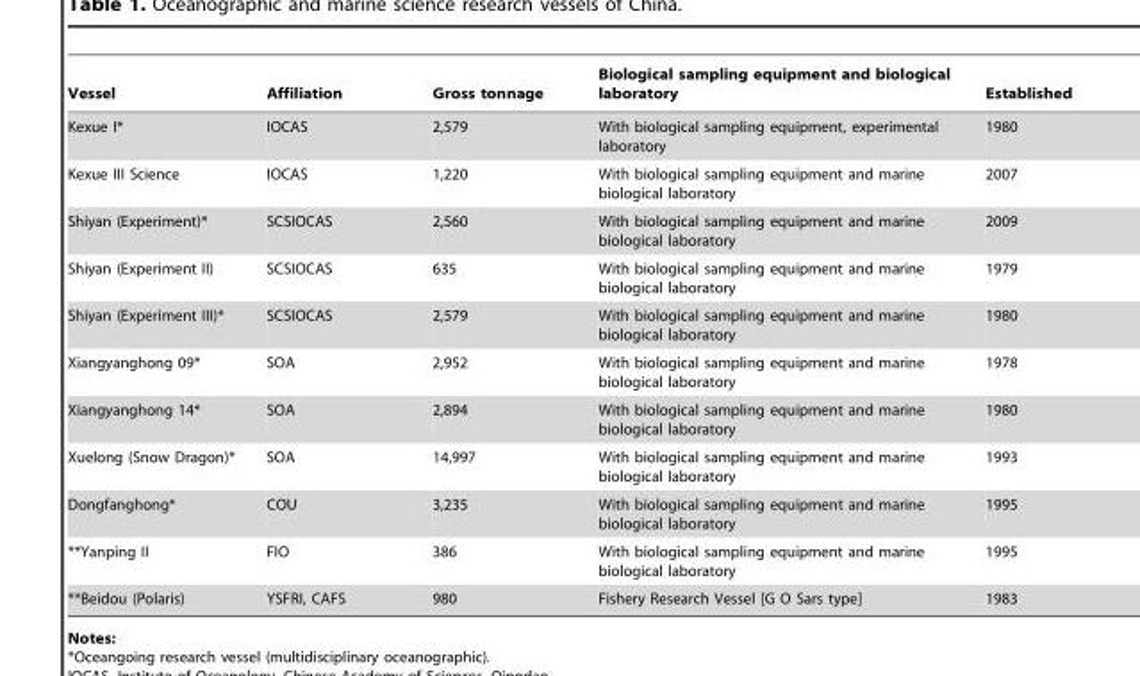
<table><thead><tr><td>Vessel</td><td>Affiliation</td><td>Gross tonnage</td><td>Biological sampling equipment and biological laboratory</td><td>Established</td></tr></thead><tbody><tr><td>Kexue I*</td><td>IOCAS</td><td>2,579</td><td>With biological sampling equipment, experimental laboratory</td><td>1980</td></tr><tr><td>Kexue III Science</td><td>IOCAS</td><td>1,220</td><td>With biological sampling equipment and marine biological laboratory</td><td>2007</td></tr><tr><td>Shiyan (Experiment)*</td><td>SCSIOCAS</td><td>2,560</td><td>With biological sampling equipment and marine biological laboratory</td><td>2009</td></tr><tr><td>Shiyan (Experiment II)</td><td>SCSIOCAS</td><td>635</td><td>With biological sampling equipment and marine biological laboratory</td><td>1979</td></tr><tr><td>Shiyan (Experiment III)*</td><td>SCSIOCAS</td><td>2,579</td><td>With biological sampling equipment and marine biological laboratory</td><td>1980</td></tr><tr><td>Xiangyanghong 09*</td><td>SOA</td><td>2,952</td><td>With biological sampling equipment and marine biological laboratory</td><td>1978</td></tr><tr><td>Xiangyanghong 14*</td><td>SOA</td><td>2,894</td><td>With biological sampling equipment and marine biological laboratory</td><td>1980</td></tr><tr><td>Xuelong (Snow Dragon)*</td><td>SOA</td><td>14,997</td><td>With biological sampling equipment and marine biological laboratory</td><td>1993</td></tr><tr><td>Dongfanghong*</td><td>COU</td><td>3,235</td><td>With biological sampling equipment and marine biological laboratory</td><td>1995</td></tr><tr><td>**Yanping II</td><td>FIO</td><td>386</td><td>With biological sampling equipment and marine biological laboratory</td><td>1995</td></tr><tr><td>**Beidou (Polaris)</td><td>YSFRI, CAFS</td><td>980</td><td>Fishery Research Vessel [G O Sars type]</td><td>1983</td></tr></tbody></table>